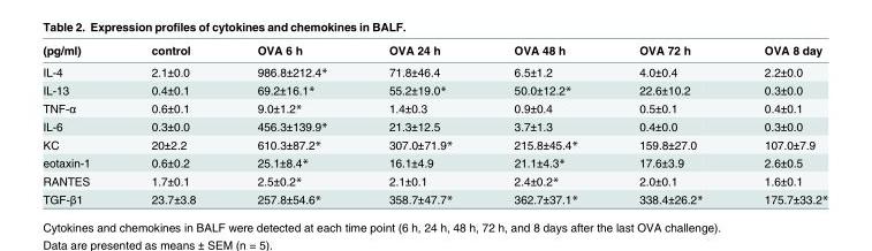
<table><thead><tr><td>(pg/ml)</td><td>control</td><td>OVA 6 h</td><td>OVA 24 h</td><td>OVA 48 h</td><td>OVA 72 h</td><td>OVA 8 day</td></tr></thead><tbody><tr><td>IL-4</td><td>2.1±0.0</td><td>986.8±212.4*</td><td>71.8±46.4</td><td>6.5±1.2</td><td>4.0±0.4</td><td>2.2±0.0</td></tr><tr><td>IL-13</td><td>0.4±0.1</td><td>69.2±16.1*</td><td>55.2±19.0*</td><td>50.0±12.2*</td><td>22.6±10.2</td><td>0.3±0.0</td></tr><tr><td>TNF-α</td><td>0.6±0.1</td><td>9.0±1.2*</td><td>1.4±0.3</td><td>0.9±0.4</td><td>0.5±0.1</td><td>0.4±0.1</td></tr><tr><td>IL-6</td><td>0.3±0.0</td><td>456.3±139.9*</td><td>21.3±12.5</td><td>3.7±1.3</td><td>0.4±0.0</td><td>0.3±0.0</td></tr><tr><td>KC</td><td>20±2.2</td><td>610.3±87.2*</td><td>307.0±71.9*</td><td>215.8±45.4*</td><td>159.8±27.0</td><td>107.0±7.9</td></tr><tr><td>eotaxin-1</td><td>0.6±0.2</td><td>25.1±8.4*</td><td>16.1±4.9</td><td>21.1±4.3*</td><td>17.6±3.9</td><td>2.6±0.5</td></tr><tr><td>RANTES</td><td>1.7±0.1</td><td>2.5±0.2*</td><td>2.1±0.1</td><td>2.4±0.2*</td><td>2.0±0.1</td><td>1.6±0.1</td></tr><tr><td>TGF-β1</td><td>23.7±3.8</td><td>257.8±54.6*</td><td>358.7±47.7*</td><td>362.7±37.1*</td><td>338.4±26.2*</td><td>175.7±33.2*</td></tr></tbody></table>